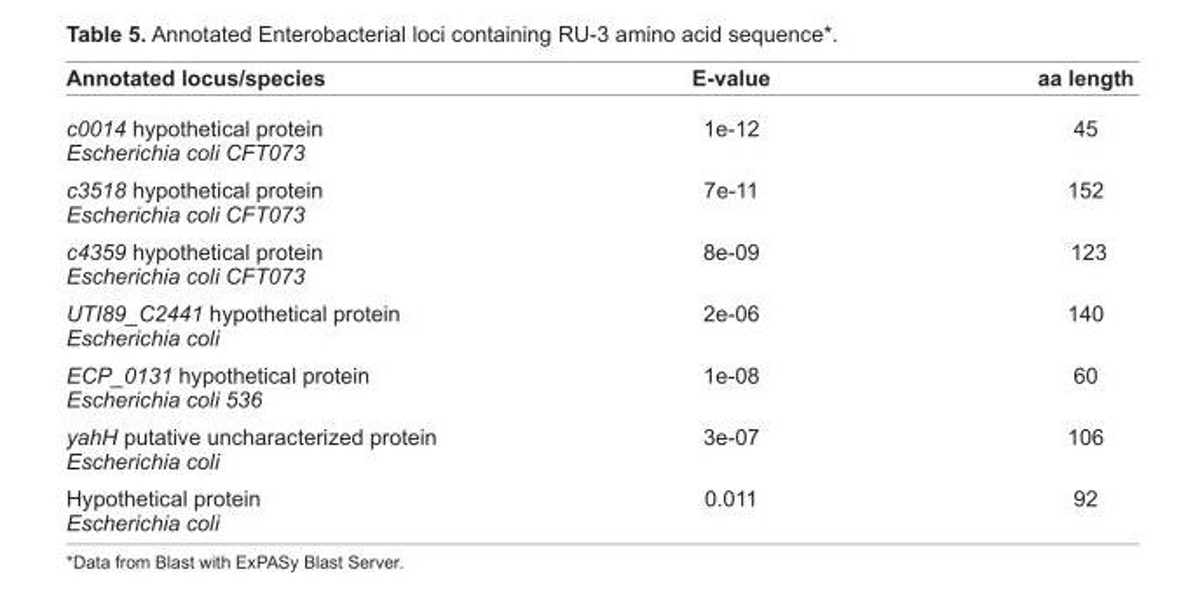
<table><thead><tr><td>Annotated locus/species</td><td>E-value</td><td>aa length</td></tr></thead><tbody><tr><td>c0014 hypothetical protein Escherichia coli CFT073</td><td>1e-12</td><td>45</td></tr><tr><td>c3518 hypothetical protein Escherichia coli CFT073</td><td>7e-11</td><td>152</td></tr><tr><td>c4359 hypothetical protein Escherichia coli CFT073</td><td>8e-09</td><td>123</td></tr><tr><td>UTI89_C2441 hypothetical protein Escherichia coli</td><td>2e-06</td><td>140</td></tr><tr><td>ECP_0131 hypothetical protein Escherichia coli 536</td><td>1e-08</td><td>60</td></tr><tr><td>yahH putative uncharacterized protein Escherichia coli</td><td>3e-07</td><td>106</td></tr><tr><td>Hypothetical protein Escherichia coli</td><td>0.011</td><td>92</td></tr></tbody></table>